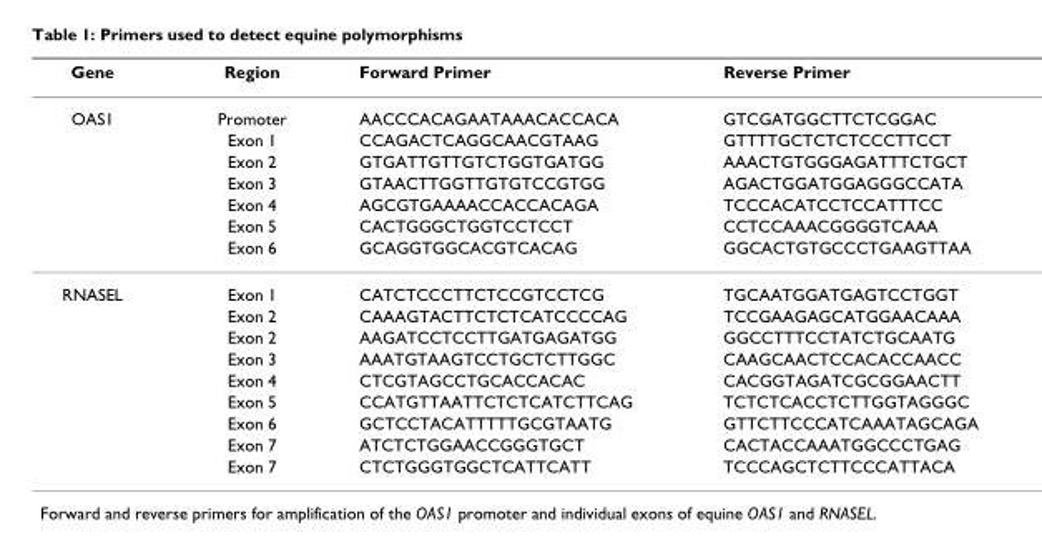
<table><thead><tr><td>Gene</td><td>Region</td><td>Forward Primer</td><td>Reverse Primer</td></tr></thead><tbody><tr><td rowspan="7">OAS1</td><td>Promoter</td><td>AACCCACAGAATAAACACCACA</td><td>GTCGATGGCTTCTCGGAC</td></tr><tr><td>Exon 1</td><td>CCAGACTCAGGCAACGTAAG</td><td>GTTTTGCTCTCTCCCTTCCT</td></tr><tr><td>Exon 2</td><td>GTGATTGTTGTCTGGTGATGG</td><td>AAACTGTGGGAGATTTCTGCT</td></tr><tr><td>Exon 3</td><td>GTAACTTGGTTGTGTCCGTGG</td><td>AGACTGGATGGAGGGCCATA</td></tr><tr><td>Exon 4</td><td>AGCGTGAAAACCACCACAGA</td><td>TCCCACATCCTCCATTTCC</td></tr><tr><td>Exon 5</td><td>CACTGGGCTGGTCCTCCT</td><td>CCTCCAAACGGGGTCAAA</td></tr><tr><td>Exon 6</td><td>GCAGGTGGCACGTCACAG</td><td>GGCACTGTGCCCTGAAGTTAA</td></tr><tr><td rowspan="9">RNASEL</td><td>Exon 1</td><td>CATCTCCCTTCTCCGTCCTCG</td><td>TGCAATGGATGAGTCCTGGT</td></tr><tr><td>Exon 2</td><td>CAAAGTACTTCTCTCATCCCCAG</td><td>TCCGAAGAGCATGGAACAAA</td></tr><tr><td>Exon 2</td><td>AAGATCCTCCTTGATGAGATGG</td><td>GGCCTTTCCTATCTGCAATG</td></tr><tr><td>Exon 3</td><td>AAATGTAAGTCCTGCTCTTGGC</td><td>CAAGCAACTCCACACCAACC</td></tr><tr><td>Exon 4</td><td>CTCGTAGCCTGCACCACAC</td><td>CACGGTAGATCGCGGAACTT</td></tr><tr><td>Exon 5</td><td>CCATGTTAATTCTCTCATCTTCAG</td><td>TCTCTCACCTCTTGGTAGGGC</td></tr><tr><td>Exon 6</td><td>GCTCCTACATTTTTGCGTAATG</td><td>GTTCTTCCCATCAAATAGCAGA</td></tr><tr><td>Exon 7</td><td>ATCTCTGGAACCGGGTGCT</td><td>CACTACCAAATGGCCCTGAG</td></tr><tr><td>Exon 7</td><td>CTCTGGGTGGCTCATTCATT</td><td>TCCCAGCTCTTCCCATTACA</td></tr></tbody></table>